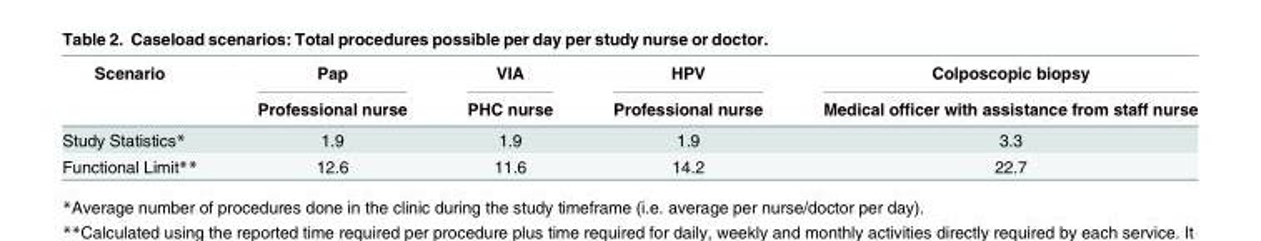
<table><thead><tr><td rowspan="2">Scenario</td><td rowspan="2">Pap Professional nurse</td><td rowspan="2">VIA PHC nurse</td><td rowspan="2">HPV Professional nurse</td><td rowspan="2">Colposcopic biopsy Medical officer with assistance from staff nurse</td></tr><tr></tr></thead><tbody><tr><td>Study Statistics*</td><td>1.9</td><td>1.9</td><td>1.9</td><td>3.3</td></tr><tr><td>Functional Limit**</td><td>12.6</td><td>11.6</td><td>14.2</td><td>22.7</td></tr></tbody></table>